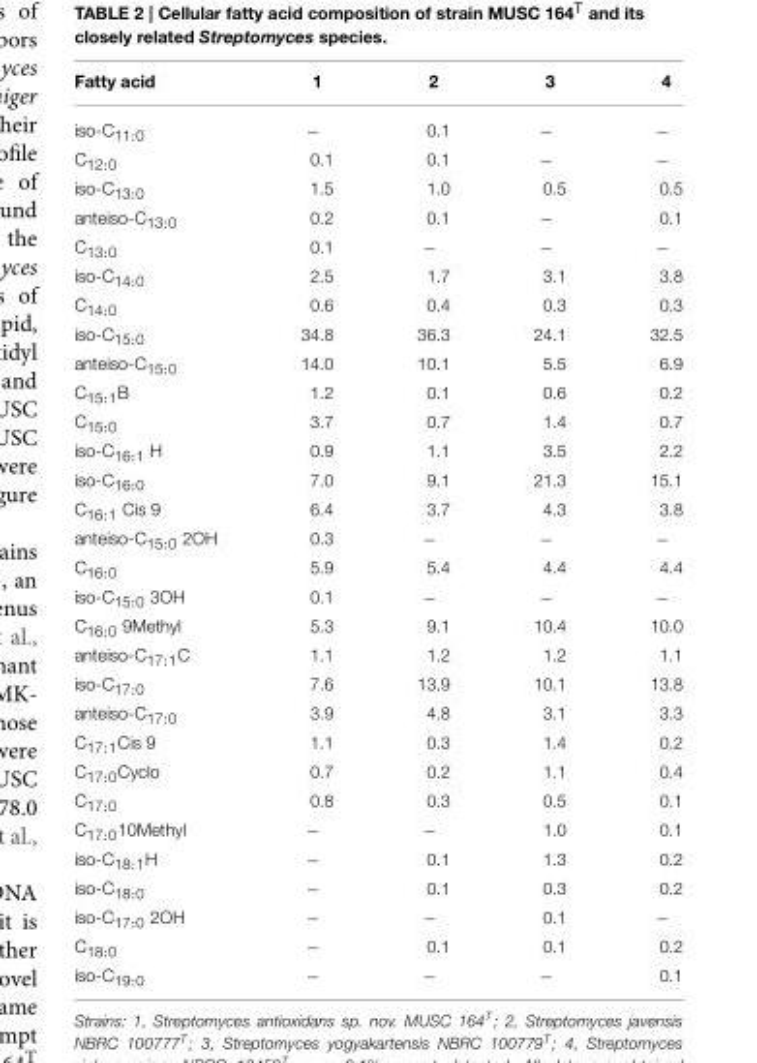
<table><thead><tr><td>Fatty acid</td><td>1</td><td>2</td><td>3</td><td>4</td></tr></thead><tbody><tr><td>iso-C<sub>11:0</sub></td><td>−</td><td>0.1</td><td>−</td><td>−</td></tr><tr><td>C<sub>12:0</sub></td><td>0.1</td><td>0.1</td><td>−</td><td>−</td></tr><tr><td>iso-C<sub>13:0</sub></td><td>1.5</td><td>1.0</td><td>0.5</td><td>0.5</td></tr><tr><td>anteiso-C<sub>13:0</sub></td><td>0.2</td><td>0.1</td><td>−</td><td>0.1</td></tr><tr><td>C<sub>13:0</sub></td><td>0.1</td><td>−</td><td>−</td><td>−</td></tr><tr><td>iso-C<sub>14:0</sub></td><td>2.5</td><td>1.7</td><td>3.1</td><td>3.8</td></tr><tr><td>C<sub>14:0</sub></td><td>0.6</td><td>0.4</td><td>0.3</td><td>0.3</td></tr><tr><td>iso-C<sub>15:0</sub></td><td>34.8</td><td>36.3</td><td>24.1</td><td>32.5</td></tr><tr><td>anteiso-C<sub>15:0</sub></td><td>14.0</td><td>10.1</td><td>5.5</td><td>6.9</td></tr><tr><td>C<sub>15:1</sub>B</td><td>1.2</td><td>0.1</td><td>0.6</td><td>0.2</td></tr><tr><td>C<sub>15:0</sub></td><td>3.7</td><td>0.7</td><td>1.4</td><td>0.7</td></tr><tr><td>iso-C<sub>16:1</sub> H</td><td>0.9</td><td>1.1</td><td>3.5</td><td>2.2</td></tr><tr><td>iso-C<sub>16:0</sub></td><td>7.0</td><td>9.1</td><td>21.3</td><td>15.1</td></tr><tr><td>C<sub>16:1</sub> Cis 9</td><td>6.4</td><td>3.7</td><td>4.3</td><td>3.8</td></tr><tr><td>anteiso-C<sub>15:0</sub> 2OH</td><td>0.3</td><td>−</td><td>−</td><td>−</td></tr><tr><td>C<sub>16:0</sub></td><td>5.9</td><td>5.4</td><td>4.4</td><td>4.4</td></tr><tr><td>iso-C<sub>15:0</sub> 3OH</td><td>0.1</td><td>−</td><td>−</td><td>−</td></tr><tr><td>C<sub>16:0</sub> 9Methyl</td><td>5.3</td><td>9.1</td><td>10.4</td><td>10.0</td></tr><tr><td>anteiso-C<sub>17:1</sub>C</td><td>1.1</td><td>1.2</td><td>1.2</td><td>1.1</td></tr><tr><td>iso-C<sub>17:0</sub></td><td>7.6</td><td>13.9</td><td>10.1</td><td>13.8</td></tr><tr><td>anteiso-C<sub>17:0</sub></td><td>3.9</td><td>4.8</td><td>3.1</td><td>3.3</td></tr><tr><td>C<sub>17:1</sub>Cis 9</td><td>1.1</td><td>0.3</td><td>1.4</td><td>0.2</td></tr><tr><td>C<sub>17:0</sub>Cyclo</td><td>0.7</td><td>0.2</td><td>1.1</td><td>0.4</td></tr><tr><td>C<sub>17:0</sub></td><td>0.8</td><td>0.3</td><td>0.5</td><td>0.1</td></tr><tr><td>C<sub>17:0</sub>10Methyl</td><td>−</td><td>−</td><td>1.0</td><td>0.1</td></tr><tr><td>iso-C<sub>18:1</sub>H</td><td>−</td><td>0.1</td><td>1.3</td><td>0.2</td></tr><tr><td>iso-C<sub>18:0</sub></td><td>−</td><td>0.1</td><td>0.3</td><td>0.2</td></tr><tr><td>iso-C<sub>17:0</sub> 2OH</td><td>−</td><td>−</td><td>0.1</td><td>−</td></tr><tr><td>C<sub>18:0</sub></td><td>−</td><td>0.1</td><td>0.1</td><td>0.2</td></tr><tr><td>iso-C<sub>19:0</sub></td><td>−</td><td>−</td><td>−</td><td>0.1</td></tr></tbody></table>